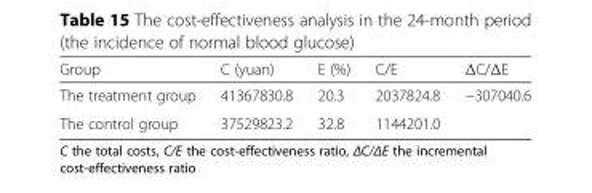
<table><thead><tr><td>Group</td><td>C (yuan)</td><td>E (%)</td><td>C/E</td><td>ΔC/ΔE</td></tr></thead><tbody><tr><td>The treatment group</td><td>41367830.8</td><td>20.3</td><td>2037824.8</td><td>−307040.6</td></tr><tr><td>The control group</td><td>37529823.2</td><td>32.8</td><td>1144201.0</td><td></td></tr></tbody></table>